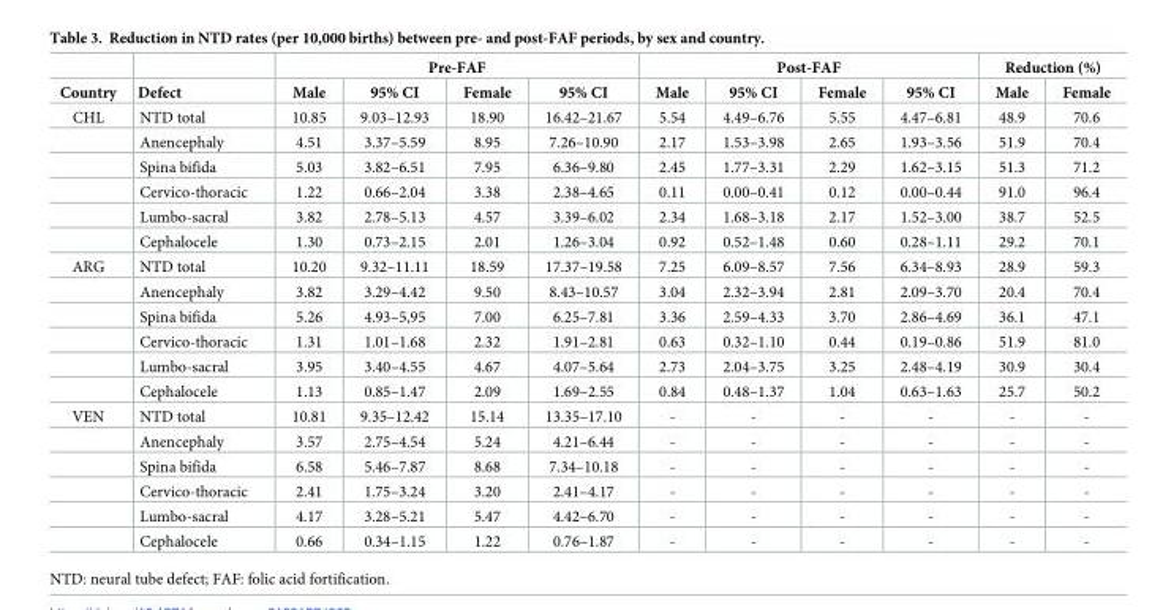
<table><thead><tr><td rowspan="2">Country</td><td rowspan="2">Defect</td><td colspan="4">Pre-FAF</td><td colspan="4">Post-FAF</td><td colspan="2">Reduction (%)</td></tr><tr><td>Male</td><td>95% CI</td><td>Female</td><td>95% CI</td><td>Male</td><td>95% CI</td><td>Female</td><td>95% CI</td><td>Male</td><td>Female</td></tr></thead><tbody><tr><td rowspan="6">CHL</td><td>NTD total</td><td>10.85</td><td>9.03–12.93</td><td>18.90</td><td>16.42–21.67</td><td>5.54</td><td>4.49–6.76</td><td>5.55</td><td>4.47–6.81</td><td>48.9</td><td>70.6</td></tr><tr><td>Anencephaly</td><td>4.51</td><td>3.37–5.59</td><td>8.95</td><td>7.26–10.90</td><td>2.17</td><td>1.53–3.98</td><td>2.65</td><td>1.93–3.56</td><td>51.9</td><td>70.4</td></tr><tr><td>Spina bifida</td><td>5.03</td><td>3.82–6.51</td><td>7.95</td><td>6.36–9.80</td><td>2.45</td><td>1.77–3.31</td><td>2.29</td><td>1.62–3.15</td><td>51.3</td><td>71.2</td></tr><tr><td>Cervico-thoracic</td><td>1.22</td><td>0.66–2.04</td><td>3.38</td><td>2.38–4.65</td><td>0.11</td><td>0.00–0.41</td><td>0.12</td><td>0.00–0.44</td><td>91.0</td><td>96.4</td></tr><tr><td>Lumbo-sacral</td><td>3.82</td><td>2.78–5.13</td><td>4.57</td><td>3.39–6.02</td><td>2.34</td><td>1.68–3.18</td><td>2.17</td><td>1.52–3.00</td><td>38.7</td><td>52.5</td></tr><tr><td>Cephalocele</td><td>1.30</td><td>0.73–2.15</td><td>2.01</td><td>1.26–3.04</td><td>0.92</td><td>0.52–1.48</td><td>0.60</td><td>0.28–1.11</td><td>29.2</td><td>70.1</td></tr><tr><td rowspan="6">ARG</td><td>NTD total</td><td>10.20</td><td>9.32–11.11</td><td>18.59</td><td>17.37–19.58</td><td>7.25</td><td>6.09–8.57</td><td>7.56</td><td>6.34–8.93</td><td>28.9</td><td>59.3</td></tr><tr><td>Anencephaly</td><td>3.82</td><td>3.29–4.42</td><td>9.50</td><td>8.43–10.57</td><td>3.04</td><td>2.32–3.94</td><td>2.81</td><td>2.09–3.70</td><td>20.4</td><td>70.4</td></tr><tr><td>Spina bifida</td><td>5.26</td><td>4.93–5,95</td><td>7.00</td><td>6.25–7.81</td><td>3.36</td><td>2.59–4.33</td><td>3.70</td><td>2.86–4.69</td><td>36.1</td><td>47.1</td></tr><tr><td>Cervico-thoracic</td><td>1.31</td><td>1.01–1.68</td><td>2.32</td><td>1.91–2.81</td><td>0.63</td><td>0.32–1.10</td><td>0.44</td><td>0.19–0.86</td><td>51.9</td><td>81.0</td></tr><tr><td>Lumbo-sacral</td><td>3.95</td><td>3.40–4.55</td><td>4.67</td><td>4.07–5.64</td><td>2.73</td><td>2.04–3.75</td><td>3.25</td><td>2.48–4.19</td><td>30.9</td><td>30.4</td></tr><tr><td>Cephalocele</td><td>1.13</td><td>0.85–1.47</td><td>2.09</td><td>1.69–2.55</td><td>0.84</td><td>0.48–1.37</td><td>1.04</td><td>0.63–1.63</td><td>25.7</td><td>50.2</td></tr><tr><td rowspan="6">VEN</td><td>NTD total</td><td>10.81</td><td>9.35–12.42</td><td>15.14</td><td>13.35–17.10</td><td>-</td><td>-</td><td>-</td><td>-</td><td>-</td><td>-</td></tr><tr><td>Anencephaly</td><td>3.57</td><td>2.75–4.54</td><td>5.24</td><td>4.21–6.44</td><td>-</td><td>-</td><td>-</td><td>-</td><td>-</td><td>-</td></tr><tr><td>Spina bifida</td><td>6.58</td><td>5.46–7.87</td><td>8.68</td><td>7.34–10.18</td><td>-</td><td>-</td><td>-</td><td>-</td><td>-</td><td>-</td></tr><tr><td>Cervico-thoracic</td><td>2.41</td><td>1.75–3.24</td><td>3.20</td><td>2.41–4.17</td><td>-</td><td>-</td><td>-</td><td>-</td><td>-</td><td>-</td></tr><tr><td>Lumbo-sacral</td><td>4.17</td><td>3.28–5.21</td><td>5.47</td><td>4.42–6.70</td><td>-</td><td>-</td><td>-</td><td>-</td><td>-</td><td>-</td></tr><tr><td>Cephalocele</td><td>0.66</td><td>0.34–1.15</td><td>1.22</td><td>0.76–1.87</td><td>-</td><td>-</td><td>-</td><td>-</td><td>-</td><td>-</td></tr></tbody></table>